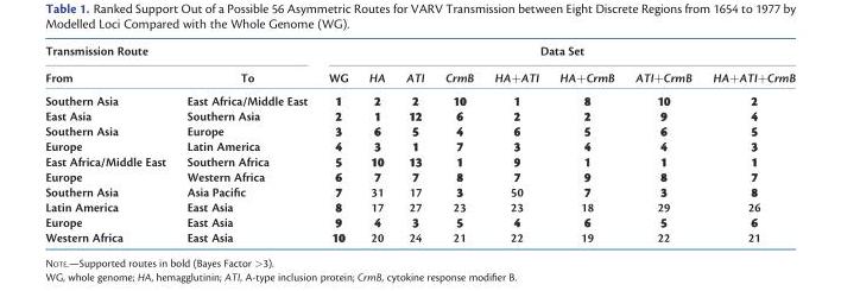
<table><thead><tr><td colspan="2">Transmission Route</td><td colspan="8">Data Set</td></tr><tr><td>From</td><td>To</td><td>WG</td><td>HA</td><td>ATI</td><td>CrmB</td><td>HA+ATI</td><td>HA+CrmB</td><td>ATI+CrmB</td><td>HA+ATI+CrmB</td></tr></thead><tbody><tr><td>Southern Asia</td><td>East Africa/Middle East</td><td>1</td><td>2</td><td>2</td><td>10</td><td>1</td><td>8</td><td>10</td><td>2</td></tr><tr><td>East Asia</td><td>Southern Asia</td><td>2</td><td>1</td><td>12</td><td>6</td><td>2</td><td>2</td><td>9</td><td>4</td></tr><tr><td>Southern Asia</td><td>Europe</td><td>3</td><td>6</td><td>5</td><td>4</td><td>6</td><td>5</td><td>6</td><td>5</td></tr><tr><td>Europe</td><td>Latin America</td><td>4</td><td>3</td><td>1</td><td>7</td><td>3</td><td>4</td><td>4</td><td>3</td></tr><tr><td>East Africa/Middle East</td><td>Southern Africa</td><td>5</td><td>10</td><td>13</td><td>1</td><td>9</td><td>1</td><td>1</td><td>1</td></tr><tr><td>Europe</td><td>Western Africa</td><td>6</td><td>7</td><td>7</td><td>8</td><td>7</td><td>9</td><td>8</td><td>7</td></tr><tr><td>Southern Asia</td><td>Asia Pacific</td><td>7</td><td>31</td><td>17</td><td>3</td><td>50</td><td>7</td><td>3</td><td>8</td></tr><tr><td>Latin America</td><td>East Asia</td><td>8</td><td>17</td><td>27</td><td>23</td><td>23</td><td>18</td><td>29</td><td>26</td></tr><tr><td>Europe</td><td>East Asia</td><td>9</td><td>4</td><td>3</td><td>5</td><td>4</td><td>6</td><td>5</td><td>6</td></tr><tr><td>Western Africa</td><td>East Asia</td><td>10</td><td>20</td><td>24</td><td>21</td><td>22</td><td>19</td><td>22</td><td>21</td></tr></tbody></table>